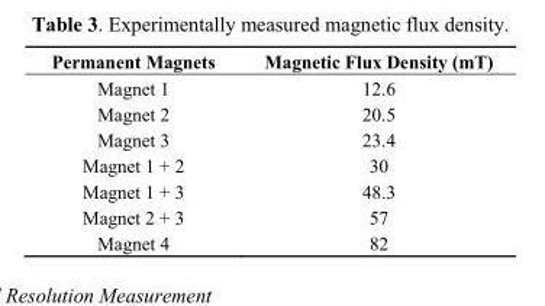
<table><thead><tr><td>Permanent Magnets</td><td>Magnetic Flux Density (mT)</td></tr></thead><tbody><tr><td>Magnet 1</td><td>12.6</td></tr><tr><td>Magnet 2</td><td>20.5</td></tr><tr><td>Magnet 3</td><td>23.4</td></tr><tr><td>Magnet 1 + 2</td><td>30</td></tr><tr><td>Magnet 1 + 3</td><td>48.3</td></tr><tr><td>Magnet 2 + 3</td><td>57</td></tr><tr><td>Magnet 4</td><td>82</td></tr></tbody></table>